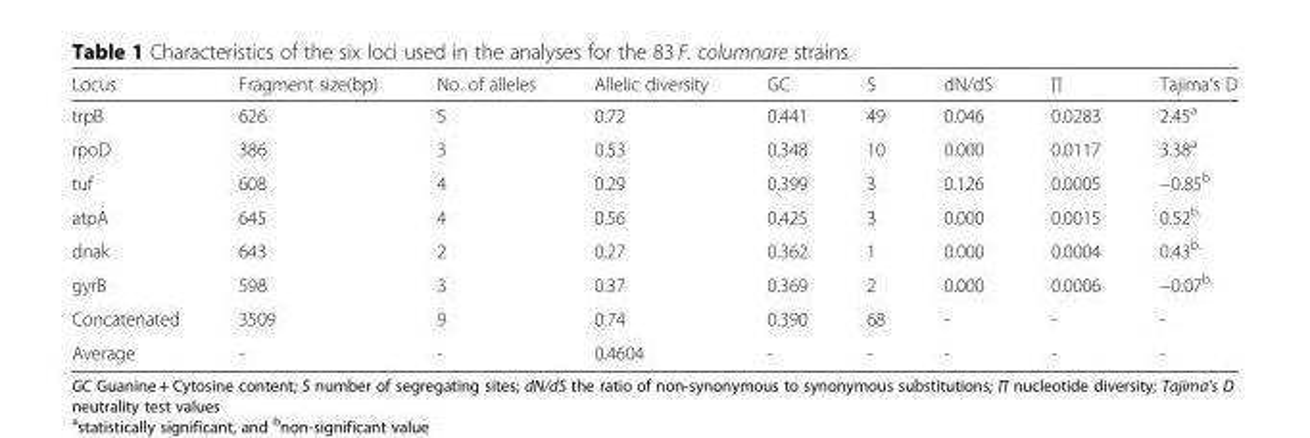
<table><thead><tr><td>Locus</td><td>Fragment size(bp)</td><td>No. of alleles</td><td>Allelic diversity</td><td>GC</td><td>S</td><td>dN/dS</td><td>∏</td><td>Tajima’s D</td></tr></thead><tbody><tr><td>trpB</td><td>626</td><td>5</td><td>0.72</td><td>0.441</td><td>49</td><td>0.046</td><td>0.0283</td><td>2.45<sup>a</sup></td></tr><tr><td>rpoD</td><td>386</td><td>3</td><td>0.53</td><td>0.348</td><td>10</td><td>0.000</td><td>0.0117</td><td>3.38<sup>a</sup></td></tr><tr><td>tuf</td><td>608</td><td>4</td><td>0.29</td><td>0.399</td><td>3</td><td>0.126</td><td>0.0005</td><td>−0.85<sup>b</sup></td></tr><tr><td>atpA</td><td>645</td><td>4</td><td>0.56</td><td>0.425</td><td>3</td><td>0.000</td><td>0.0015</td><td>0.52<sup>b.</sup></td></tr><tr><td>dnak</td><td>643</td><td>2</td><td>0.27</td><td>0.362</td><td>1</td><td>0.000</td><td>0.0004</td><td>0.43<sup>b.</sup></td></tr><tr><td>gyrB</td><td>598</td><td>3</td><td>0.37</td><td>0.369</td><td>2</td><td>0.000</td><td>0.0006</td><td>−0.07<sup>b.</sup></td></tr><tr><td>Concatenated</td><td>3509</td><td>9</td><td>0.74</td><td>0.390</td><td>68</td><td>-</td><td>-</td><td>-</td></tr><tr><td>Average</td><td>-</td><td>-</td><td>0.4604</td><td>-</td><td>-</td><td>-</td><td>-</td><td>-</td></tr></tbody></table>